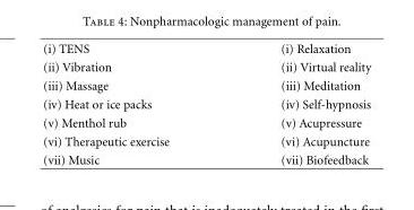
<table><tbody><tr><td>(i) TENS</td><td>(i) Relaxation</td></tr><tr><td>(ii) Vibration</td><td>(ii) Virtual reality</td></tr><tr><td>(iii) Massage</td><td>(iii) Meditation</td></tr><tr><td>(iv) Heat or ice packs</td><td>(iv) Self-hypnosis</td></tr><tr><td>(v) Menthol rub</td><td>(v) Acupressure</td></tr><tr><td>(vi) Therapeutic exercise</td><td>(vi) Acupuncture</td></tr><tr><td>(vii) Music</td><td>(vii) Biofeedback</td></tr></tbody></table>